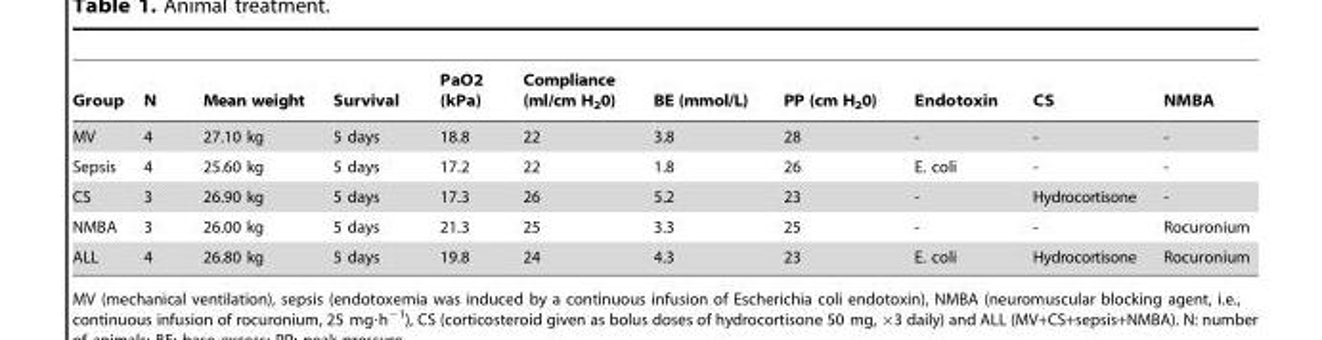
<table><thead><tr><td>Group</td><td>N</td><td>Mean weight</td><td>Survival</td><td>PaO2 (kPa)</td><td>Compliance (ml/cm H<sub>2</sub>0)</td><td>BE (mmol/L)</td><td>PP (cm H<sub>2</sub>0)</td><td>Endotoxin</td><td>CS</td><td>NMBA</td></tr></thead><tbody><tr><td>MV</td><td>4</td><td>27.10 kg</td><td>5 days</td><td>18.8</td><td>22</td><td>3.8</td><td>28</td><td>-</td><td>-</td><td>-</td></tr><tr><td>Sepsis</td><td>4</td><td>25.60 kg</td><td>5 days</td><td>17.2</td><td>22</td><td>1.8</td><td>26</td><td>E. coli</td><td>-</td><td>-</td></tr><tr><td>CS</td><td>3</td><td>26.90 kg</td><td>5 days</td><td>17.3</td><td>26</td><td>5.2</td><td>23</td><td>-</td><td>Hydrocortisone</td><td>-</td></tr><tr><td>NMBA</td><td>3</td><td>26.00 kg</td><td>5 days</td><td>21.3</td><td>25</td><td>3.3</td><td>25</td><td>-</td><td>-</td><td>Rocuronium</td></tr><tr><td>ALL</td><td>4</td><td>26.80 kg</td><td>5 days</td><td>19.8</td><td>24</td><td>4.3</td><td>23</td><td>E. coli</td><td>Hydrocortisone</td><td>Rocuronium</td></tr></tbody></table>